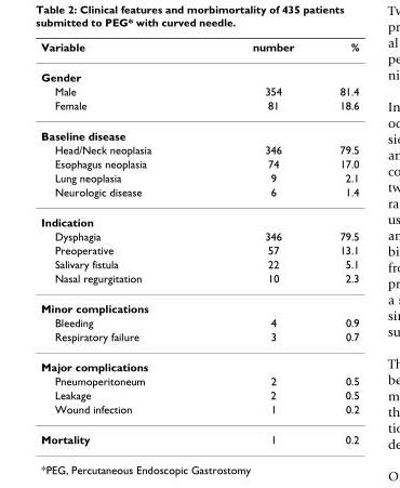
<table><thead><tr><td>Variable</td><td>number</td><td>%</td></tr></thead><tbody><tr><td colspan="3">Gender</td></tr><tr><td>Male</td><td>354</td><td>81.4</td></tr><tr><td>Female</td><td>81</td><td>18.6</td></tr><tr><td colspan="3">Baseline disease</td></tr><tr><td>Head/Neck neoplasia</td><td>346</td><td>79.5</td></tr><tr><td>Esophagus neoplasia</td><td>74</td><td>17.0</td></tr><tr><td>Lung neoplasia</td><td>9</td><td>2.1</td></tr><tr><td>Neurologic disease</td><td>6</td><td>1.4</td></tr><tr><td colspan="3">Indication</td></tr><tr><td>Dysphagia</td><td>346</td><td>79.5</td></tr><tr><td>Preoperative</td><td>57</td><td>13.1</td></tr><tr><td>Salivary fistula</td><td>22</td><td>5.1</td></tr><tr><td>Nasal regurgitation</td><td>10</td><td>2.3</td></tr><tr><td colspan="3">Minor complications</td></tr><tr><td>Bleeding</td><td>4</td><td>0.9</td></tr><tr><td>Respiratory failure</td><td>3</td><td>0.7</td></tr><tr><td colspan="3">Major complications</td></tr><tr><td>Pneumoperitoneum</td><td>2</td><td>0.5</td></tr><tr><td>Leakage</td><td>2</td><td>0.5</td></tr><tr><td>Wound infection</td><td>1</td><td>0.2</td></tr><tr><td>Mortality</td><td>1</td><td>0.2</td></tr></tbody></table>